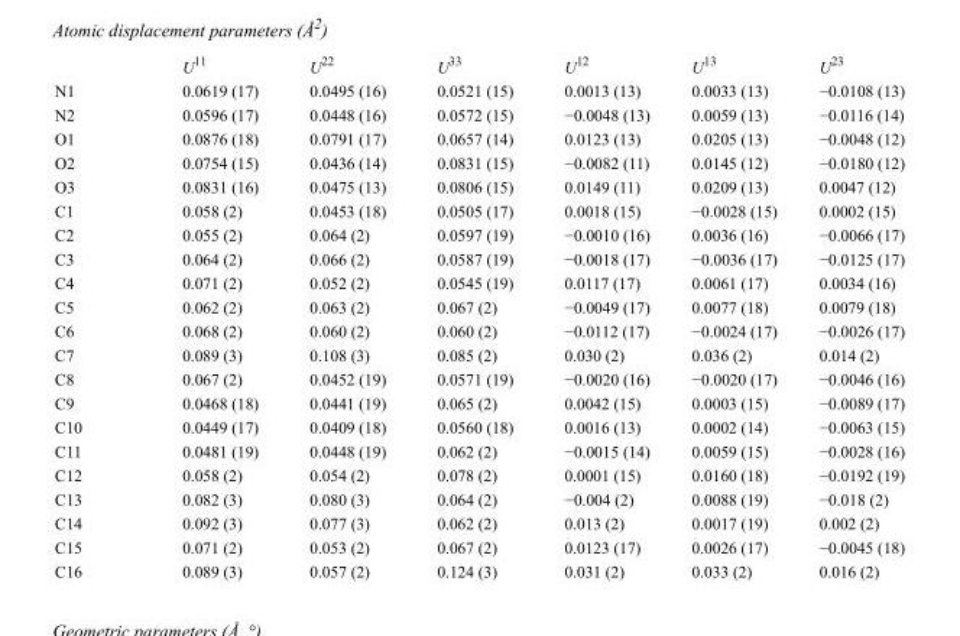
<table><thead><tr><td></td><td>U<sup>11</sup></td><td>U<sup>22</sup></td><td>U<sup>33</sup></td><td>U<sup>12</sup></td><td>U<sup>13</sup></td><td>U<sup>23</sup></td></tr></thead><tbody><tr><td>N1</td><td>0.0619 (17)</td><td>0.0495 (16)</td><td>0.0521 (15)</td><td>0.0013 (13)</td><td>0.0033 (13)</td><td>−0.0108 (13)</td></tr><tr><td>N2</td><td>0.0596 (17)</td><td>0.0448 (16)</td><td>0.0572 (15)</td><td>−0.0048 (13)</td><td>0.0059 (13)</td><td>−0.0116 (14)</td></tr><tr><td>O1</td><td>0.0876 (18)</td><td>0.0791 (17)</td><td>0.0657 (14)</td><td>0.0123 (13)</td><td>0.0205 (13)</td><td>−0.0048 (12)</td></tr><tr><td>O2</td><td>0.0754 (15)</td><td>0.0436 (14)</td><td>0.0831 (15)</td><td>−0.0082 (11)</td><td>0.0145 (12)</td><td>−0.0180 (12)</td></tr><tr><td>O3</td><td>0.0831 (16)</td><td>0.0475 (13)</td><td>0.0806 (15)</td><td>0.0149 (11)</td><td>0.0209 (13)</td><td>0.0047 (12)</td></tr><tr><td>C1</td><td>0.058 (2)</td><td>0.0453 (18)</td><td>0.0505 (17)</td><td>0.0018 (15)</td><td>−0.0028 (15)</td><td>0.0002 (15)</td></tr><tr><td>C2</td><td>0.055 (2)</td><td>0.064 (2)</td><td>0.0597 (19)</td><td>−0.0010 (16)</td><td>0.0036 (16)</td><td>−0.0066 (17)</td></tr><tr><td>C3</td><td>0.064 (2)</td><td>0.066 (2)</td><td>0.0587 (19)</td><td>−0.0018 (17)</td><td>−0.0036 (17)</td><td>−0.0125 (17)</td></tr><tr><td>C4</td><td>0.071 (2)</td><td>0.052 (2)</td><td>0.0545 (19)</td><td>0.0117 (17)</td><td>0.0061 (17)</td><td>0.0034 (16)</td></tr><tr><td>C5</td><td>0.062 (2)</td><td>0.063 (2)</td><td>0.067 (2)</td><td>−0.0049 (17)</td><td>0.0077 (18)</td><td>0.0079 (18)</td></tr><tr><td>C6</td><td>0.068 (2)</td><td>0.060 (2)</td><td>0.060 (2)</td><td>−0.0112 (17)</td><td>−0.0024 (17)</td><td>−0.0026 (17)</td></tr><tr><td>C7</td><td>0.089 (3)</td><td>0.108 (3)</td><td>0.085 (2)</td><td>0.030 (2)</td><td>0.036 (2)</td><td>0.014 (2)</td></tr><tr><td>C8</td><td>0.067 (2)</td><td>0.0452 (19)</td><td>0.0571 (19)</td><td>−0.0020 (16)</td><td>−0.0020 (17)</td><td>−0.0046 (16)</td></tr><tr><td>C9</td><td>0.0468 (18)</td><td>0.0441 (19)</td><td>0.065 (2)</td><td>0.0042 (15)</td><td>0.0003 (15)</td><td>−0.0089 (17)</td></tr><tr><td>C10</td><td>0.0449 (17)</td><td>0.0409 (18)</td><td>0.0560 (18)</td><td>0.0016 (13)</td><td>0.0002 (14)</td><td>−0.0063 (15)</td></tr><tr><td>C11</td><td>0.0481 (19)</td><td>0.0448 (19)</td><td>0.062 (2)</td><td>−0.0015 (14)</td><td>0.0059 (15)</td><td>−0.0028 (16)</td></tr><tr><td>C12</td><td>0.058 (2)</td><td>0.054 (2)</td><td>0.078 (2)</td><td>0.0001 (15)</td><td>0.0160 (18)</td><td>−0.0192 (19)</td></tr><tr><td>C13</td><td>0.082 (3)</td><td>0.080 (3)</td><td>0.064 (2)</td><td>−0.004 (2)</td><td>0.0088 (19)</td><td>−0.018 (2)</td></tr><tr><td>C14</td><td>0.092 (3)</td><td>0.077 (3)</td><td>0.062 (2)</td><td>0.013 (2)</td><td>0.0017 (19)</td><td>0.002 (2)</td></tr><tr><td>C15</td><td>0.071 (2)</td><td>0.053 (2)</td><td>0.067 (2)</td><td>0.0123 (17)</td><td>0.0026 (17)</td><td>−0.0045 (18)</td></tr><tr><td>C16</td><td>0.089 (3)</td><td>0.057 (2)</td><td>0.124 (3)</td><td>0.031 (2)</td><td>0.033 (2)</td><td>0.016 (2)</td></tr></tbody></table>